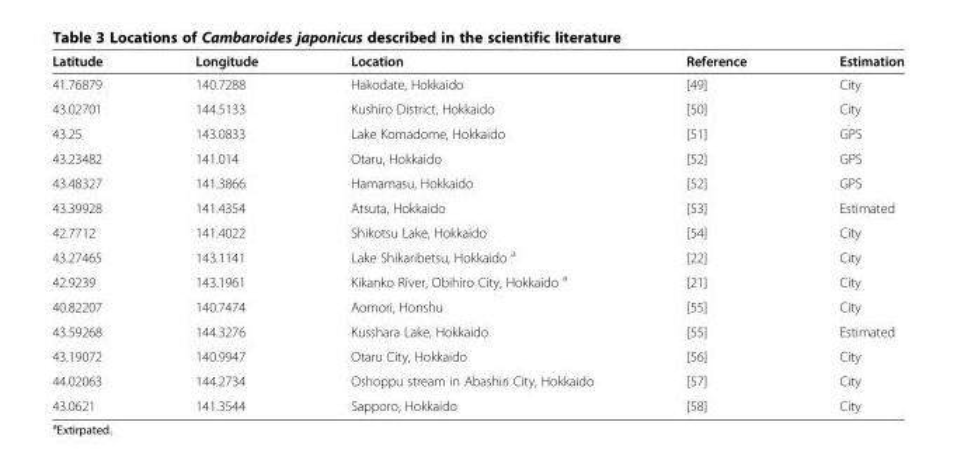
<table><thead><tr><td>Latitude</td><td>Longitude</td><td>Location</td><td>Reference</td><td>Estimation</td></tr></thead><tbody><tr><td>41.76879</td><td>140.7288</td><td>Hakodate, Hokkaido</td><td>[49]</td><td>City</td></tr><tr><td>43.02701</td><td>144.5133</td><td>Kushiro District, Hokkaido</td><td>[50]</td><td>City</td></tr><tr><td>43.25</td><td>143.0833</td><td>Lake Komadome, Hokkaido</td><td>[51]</td><td>GPS</td></tr><tr><td>43.23482</td><td>141.014</td><td>Otaru, Hokkaido</td><td>[52]</td><td>GPS</td></tr><tr><td>43.48327</td><td>141.3866</td><td>Hamamasu, Hokkaido</td><td>[52]</td><td>GPS</td></tr><tr><td>43.39928</td><td>141.4354</td><td>Atsuta, Hokkaido</td><td>[53]</td><td>Estimated</td></tr><tr><td>42.7712</td><td>141.4022</td><td>Shikotsu Lake, Hokkaido</td><td>[54]</td><td>City</td></tr><tr><td>43.27465</td><td>143.1141</td><td>Lake Shikaribetsu, Hokkaido <sup>a</sup></td><td>[22]</td><td>City</td></tr><tr><td>42.9239</td><td>143.1961</td><td>Kikanko River, Obihiro City, Hokkaido <sup>a</sup></td><td>[21]</td><td>City</td></tr><tr><td>40.82207</td><td>140.7474</td><td>Aomori, Honshu</td><td>[55]</td><td>City</td></tr><tr><td>43.59268</td><td>144.3276</td><td>Kusshara Lake, Hokkaido</td><td>[55]</td><td>Estimated</td></tr><tr><td>43.19072</td><td>140.9947</td><td>Otaru City, Hokkaido</td><td>[56]</td><td>City</td></tr><tr><td>44.02063</td><td>144.2734</td><td>Oshoppu stream in Abashiri City, Hokkaido</td><td>[57]</td><td>City</td></tr><tr><td>43.0621</td><td>141.3544</td><td>Sapporo, Hokkaido</td><td>[58]</td><td>City</td></tr></tbody></table>